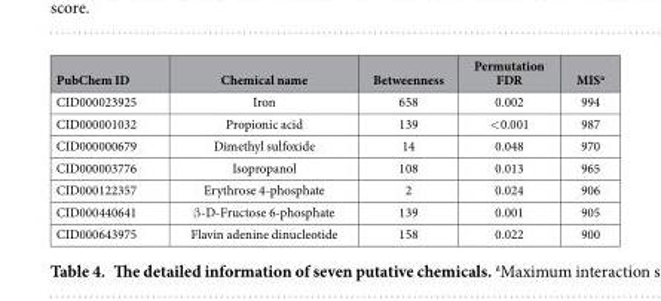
<table><thead><tr><td>PubChem ID</td><td>Chemical name</td><td>Betweenness</td><td>Permutation FDR</td><td>MIS<sup>a</sup></td></tr></thead><tbody><tr><td>CID000023925</td><td>Iron</td><td>658</td><td>0.002</td><td>994</td></tr><tr><td>CID000001032</td><td>Propionic acid</td><td>139</td><td>&lt; 0.001</td><td>987</td></tr><tr><td>CID000000679</td><td>Dimethyl sulfoxide</td><td>14</td><td>0.048</td><td>970</td></tr><tr><td>CID000003776</td><td>Isopropanol</td><td>108</td><td>0.013</td><td>965</td></tr><tr><td>CID000122357</td><td>Erythrose 4-phosphate</td><td>2</td><td>0.024</td><td>906</td></tr><tr><td>CID000440641</td><td>β -D-Fructose 6-phosphate</td><td>139</td><td>0.001</td><td>905</td></tr><tr><td>CID000643975</td><td>Flavin adenine dinucleotide</td><td>158</td><td>0.022</td><td>900</td></tr></tbody></table>